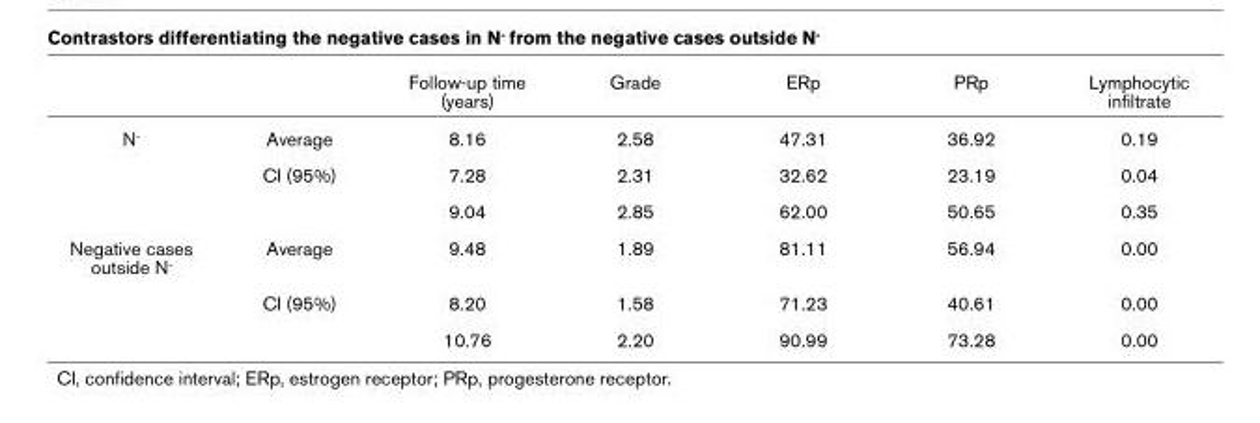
<table><thead><tr><td></td><td></td><td>Follow-up time (years)</td><td>Grade</td><td>ERp</td><td>PRp</td><td>Lymphocytic infiltrate</td></tr></thead><tbody><tr><td rowspan="3">N-</td><td>Average</td><td>8.16</td><td>2.58</td><td>47.31</td><td>36.92</td><td>0.19</td></tr><tr><td>CI (95%)</td><td>7.28</td><td>2.31</td><td>32.62</td><td>23.19</td><td>0.04</td></tr><tr><td></td><td>9.04</td><td>2.85</td><td>62.00</td><td>50.65</td><td>0.35</td></tr><tr><td rowspan="3">Negative cases outside N-</td><td>Average</td><td>9.48</td><td>1.89</td><td>81.11</td><td>56.94</td><td>0.00</td></tr><tr><td>CI (95%)</td><td>8.20</td><td>1.58</td><td>71.23</td><td>40.61</td><td>0.00</td></tr><tr><td></td><td>10.76</td><td>2.20</td><td>90.99</td><td>73.28</td><td>0.00</td></tr></tbody></table>